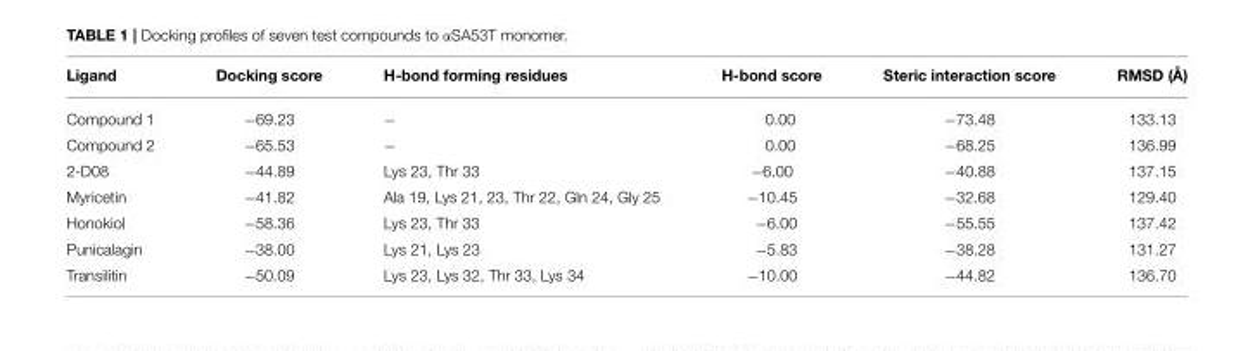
<table><thead><tr><td>Ligand</td><td>Docking score</td><td>H-bond forming residues</td><td>H-bond score</td><td>Steric interaction score</td><td>RMSD (Å)</td></tr></thead><tbody><tr><td>Compound 1</td><td>−69.23</td><td>−</td><td>0.00</td><td>−73.48</td><td>133.13</td></tr><tr><td>Compound 2</td><td>−65.53</td><td>−</td><td>0.00</td><td>−68.25</td><td>136.99</td></tr><tr><td>2-D08</td><td>−44.89</td><td>Lys 23, Thr 33</td><td>−6.00</td><td>−40.88</td><td>137.15</td></tr><tr><td>Myricetin</td><td>−41.82</td><td>Ala 19, Lys 21, 23, Thr 22, Gln 24, Gly 25</td><td>−10.45</td><td>−32.68</td><td>129.40</td></tr><tr><td>Honokiol</td><td>−58.36</td><td>Lys 23, Thr 33</td><td>−6.00</td><td>−55.55</td><td>137.42</td></tr><tr><td>Punicalagin</td><td>−38.00</td><td>Lys 21, Lys 23</td><td>−5.83</td><td>−38.28</td><td>131.27</td></tr><tr><td>Transilitin</td><td>−50.09</td><td>Lys 23, Lys 32, Thr 33, Lys 34</td><td>−10.00</td><td>−44.82</td><td>136.70</td></tr></tbody></table>